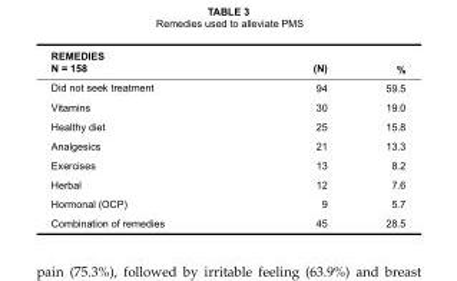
<table><thead><tr><td>reMeDies N = 158</td><td>(N)</td><td>%</td></tr></thead><tbody><tr><td>Did not seek treatment</td><td>94</td><td>59.5</td></tr><tr><td>Vitamins</td><td>30</td><td>19.0</td></tr><tr><td>Healthy diet</td><td>25</td><td>15.8</td></tr><tr><td>Analgesics</td><td>21</td><td>13.3</td></tr><tr><td>Exercises</td><td>13</td><td>8.2</td></tr><tr><td>Herbal</td><td>12</td><td>7.6</td></tr><tr><td>Hormonal (OCP)</td><td>9</td><td>5.7</td></tr><tr><td>Combination of remedies</td><td>45</td><td>28.5</td></tr></tbody></table>